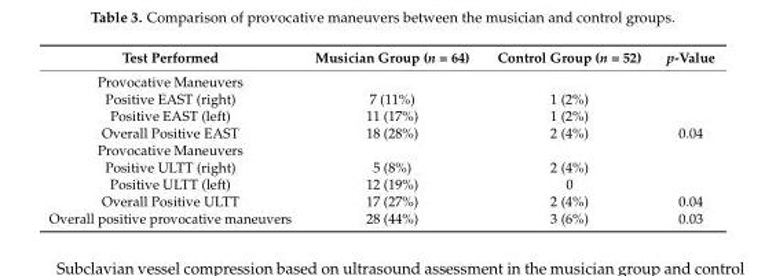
<table><thead><tr><td>Test Performed</td><td>Musician Group (n = 64)</td><td>Control Group (n = 52)</td><td>p-Value</td></tr></thead><tbody><tr><td colspan="4">Provocative Maneuvers</td></tr><tr><td>Positive EAST (right)</td><td>7 (11%)</td><td>1 (2%)</td><td></td></tr><tr><td>Positive EAST (left)</td><td>11 (17%)</td><td>1 (2%)</td><td></td></tr><tr><td>Overall Positive EAST</td><td>18 (28%)</td><td>2 (4%)</td><td>0.04</td></tr><tr><td colspan="4">Provocative Maneuvers</td></tr><tr><td>Positive ULTT (right)</td><td>5 (8%)</td><td>2 (4%)</td><td></td></tr><tr><td>Positive ULTT (left)</td><td>12 (19%)</td><td>0</td><td></td></tr><tr><td>Overall Positive ULTT</td><td>17 (27%)</td><td>2 (4%)</td><td>0.04</td></tr><tr><td>Overall positive provocative maneuvers</td><td>28 (44%)</td><td>3 (6%)</td><td>0.03</td></tr></tbody></table>